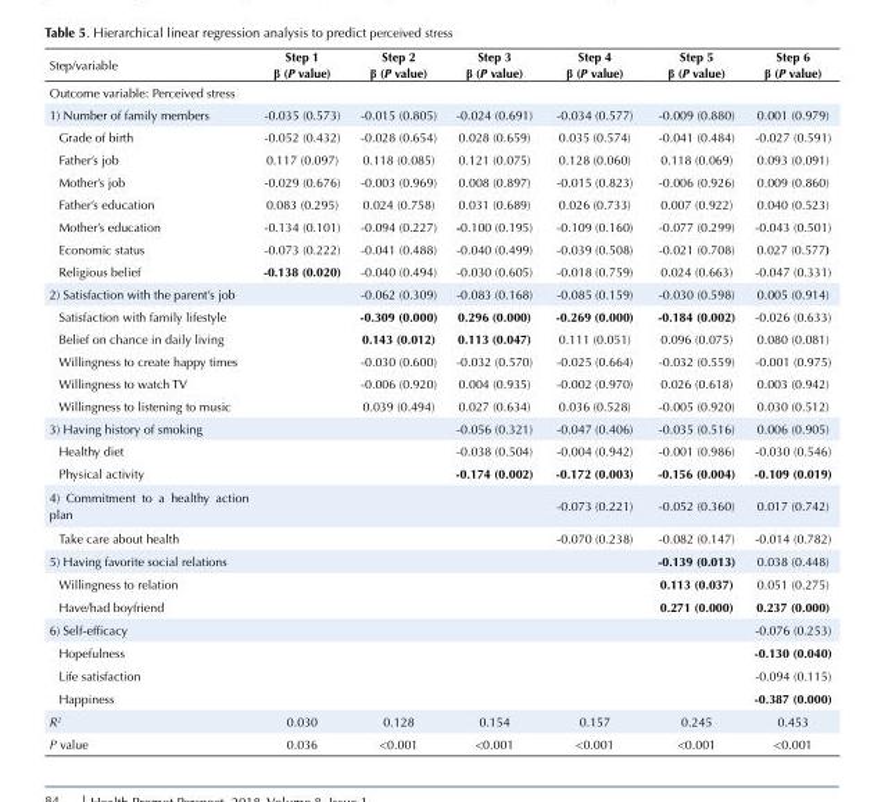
<table><tbody><tr><td>Step/variable</td><td>Step 1 β (P value)</td><td>Step 2 β (P value)</td><td>Step 3 β (P value)</td><td>Step 4 β (P value)</td><td>Step 5 β (P value)</td><td>Step 6 β (P value)</td></tr><tr><td colspan="7">Outcome variable: Perceived stress</td></tr><tr><td>1) Number of family members</td><td>-0.035 (0.573)</td><td>-0.015 (0.805)</td><td>-0.024 (0.691)</td><td>-0.034 (0.577)</td><td>-0.009 (0.880)</td><td>0.001 (0.979)</td></tr><tr><td>Grade of birth</td><td>-0.052 (0.432)</td><td>-0.028 (0.654)</td><td>0.028 (0.659)</td><td>0.035 (0.574)</td><td>-0.041 (0.484)</td><td>-0.027 (0.591)</td></tr><tr><td>Father’s job</td><td>0.117 (0.097)</td><td>0.118 (0.085)</td><td>0.121 (0.075)</td><td>0.128 (0.060)</td><td>0.118 (0.069)</td><td>0.093 (0.091)</td></tr><tr><td>Mother’s job</td><td>-0.029 (0.676)</td><td>-0.003 (0.969)</td><td>0.008 (0.897)</td><td>-0.015 (0.823)</td><td>-0.006 (0.926)</td><td>0.009 (0.860)</td></tr><tr><td>Father’s education</td><td>0.083 (0.295)</td><td>0.024 (0.758)</td><td>0.031 (0.689)</td><td>0.026 (0.733)</td><td>0.007 (0.922)</td><td>0.040 (0.523)</td></tr><tr><td>Mother’s education</td><td>-0.134 (0.101)</td><td>-0.094 (0.227)</td><td>-0.100 (0.195)</td><td>-0.109 (0.160)</td><td>-0.077 (0.299)</td><td>-0.043 (0.501)</td></tr><tr><td>Economic status</td><td>-0.073 (0.222)</td><td>-0.041 (0.488)</td><td>-0.040 (0.499)</td><td>-0.039 (0.508)</td><td>-0.021 (0.708)</td><td>0.027 (0.577)</td></tr><tr><td>Religious belief</td><td>-0.138 (0.020)</td><td>-0.040 (0.494)</td><td>-0.030 (0.605)</td><td>-0.018 (0.759)</td><td>0.024 (0.663)</td><td>-0.047 (0.331)</td></tr><tr><td>2) Satisfaction with the parent’s job</td><td></td><td>-0.062 (0.309)</td><td>-0.083 (0.168)</td><td>-0.085 (0.159)</td><td>-0.030 (0.598)</td><td>0.005 (0.914)</td></tr><tr><td>Satisfaction with family lifestyle</td><td></td><td>-0.309 (0.000)</td><td>0.296 (0.000)</td><td>-0.269 (0.000)</td><td>-0.184 (0.002)</td><td>-0.026 (0.633)</td></tr><tr><td>Belief on chance in daily living</td><td></td><td>0.143 (0.012)</td><td>0.113 (0.047)</td><td>0.111 (0.051)</td><td>0.096 (0.075)</td><td>0.080 (0.081)</td></tr><tr><td>Willingness to create happy times</td><td></td><td>-0.030 (0.600)</td><td>-0.032 (0.570)</td><td>-0.025 (0.664)</td><td>-0.032 (0.559)</td><td>-0.001 (0.975)</td></tr><tr><td>Willingness to watch TV</td><td></td><td>-0.006 (0.920)</td><td>0.004 (0.935)</td><td>-0.002 (0.970)</td><td>0.026 (0.618)</td><td>0.003 (0.942)</td></tr><tr><td>Willingness to listening to music</td><td></td><td>0.039 (0.494)</td><td>0.027 (0.634)</td><td>0.036 (0.528)</td><td>-0.005 (0.920)</td><td>0.030 (0.512)</td></tr><tr><td>3) Having history of smoking</td><td></td><td></td><td>-0.056 (0.321)</td><td>-0.047 (0.406)</td><td>-0.035 (0.516)</td><td>0.006 (0.905)</td></tr><tr><td>Healthy diet</td><td></td><td></td><td>-0.038 (0.504)</td><td>-0.004 (0.942)</td><td>-0.001 (0.986)</td><td>-0.030 (0.546)</td></tr><tr><td>Physical activity</td><td></td><td></td><td>-0.174 (0.002)</td><td>-0.172 (0.003)</td><td>-0.156 (0.004)</td><td>-0.109 (0.019)</td></tr><tr><td>4) Commitment to a healthy action plan</td><td></td><td></td><td></td><td>-0.073 (0.221)</td><td>-0.052 (0.360)</td><td>0.017 (0.742)</td></tr><tr><td>Take care about health</td><td></td><td></td><td></td><td>-0.070 (0.238)</td><td>-0.082 (0.147)</td><td>-0.014 (0.782)</td></tr><tr><td>5) Having favorite social relations</td><td></td><td></td><td></td><td></td><td>-0.139 (0.013)</td><td>0.038 (0.448)</td></tr><tr><td>Willingness to relation</td><td></td><td></td><td></td><td></td><td>0.113 (0.037)</td><td>0.051 (0.275)</td></tr><tr><td>Have/had boyfriend</td><td></td><td></td><td></td><td></td><td>0.271 (0.000)</td><td>0.237 (0.000)</td></tr><tr><td>6) Self-efficacy</td><td></td><td></td><td></td><td></td><td></td><td>-0.076 (0.253)</td></tr><tr><td>Hopefulness</td><td></td><td></td><td></td><td></td><td></td><td>-0.130 (0.040)</td></tr><tr><td>Life satisfaction</td><td></td><td></td><td></td><td></td><td></td><td>-0.094 (0.115)</td></tr><tr><td>Happiness</td><td></td><td></td><td></td><td></td><td></td><td>-0.387 (0.000)</td></tr><tr><td>R<sup>2</sup></td><td>0.030</td><td>0.128</td><td>0.154</td><td>0.157</td><td>0.245</td><td>0.453</td></tr><tr><td>P value</td><td>0.036</td><td>&lt;0.001</td><td>&lt;0.001</td><td>&lt;0.001</td><td>&lt;0.001</td><td>&lt;0.001</td></tr></tbody></table>